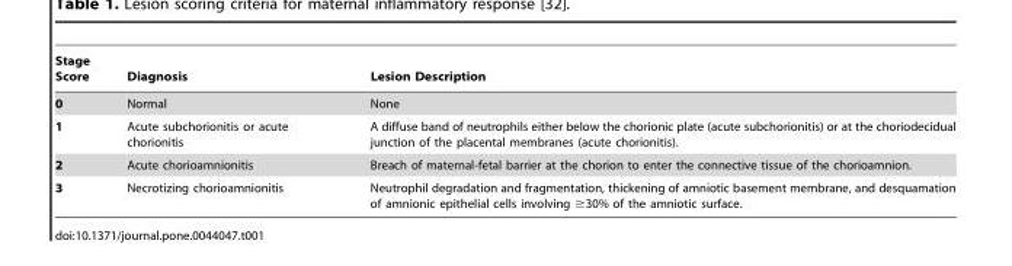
<table><thead><tr><td>Stage Score</td><td>Diagnosis</td><td>Lesion Description</td></tr></thead><tbody><tr><td>0</td><td>Normal</td><td>None</td></tr><tr><td>1</td><td>Acute subchorionitis or acute chorionitis</td><td>A diffuse band of neutrophils either below the chorionic plate (acute subchorionitis) or at the choriodecidual junction of the placental membranes (acute chorionitis).</td></tr><tr><td>2</td><td>Acute chorioamnionitis</td><td>Breach of maternal-fetal barrier at the chorion to enter the connective tissue of the chorioamnion.</td></tr><tr><td>3</td><td>Necrotizing chorioamnionitis</td><td>Neutrophil degradation and fragmentation, thickening of amniotic basement membrane, and desquamation of amnionic epithelial cells involving ≥30% of the amniotic surface.</td></tr></tbody></table>